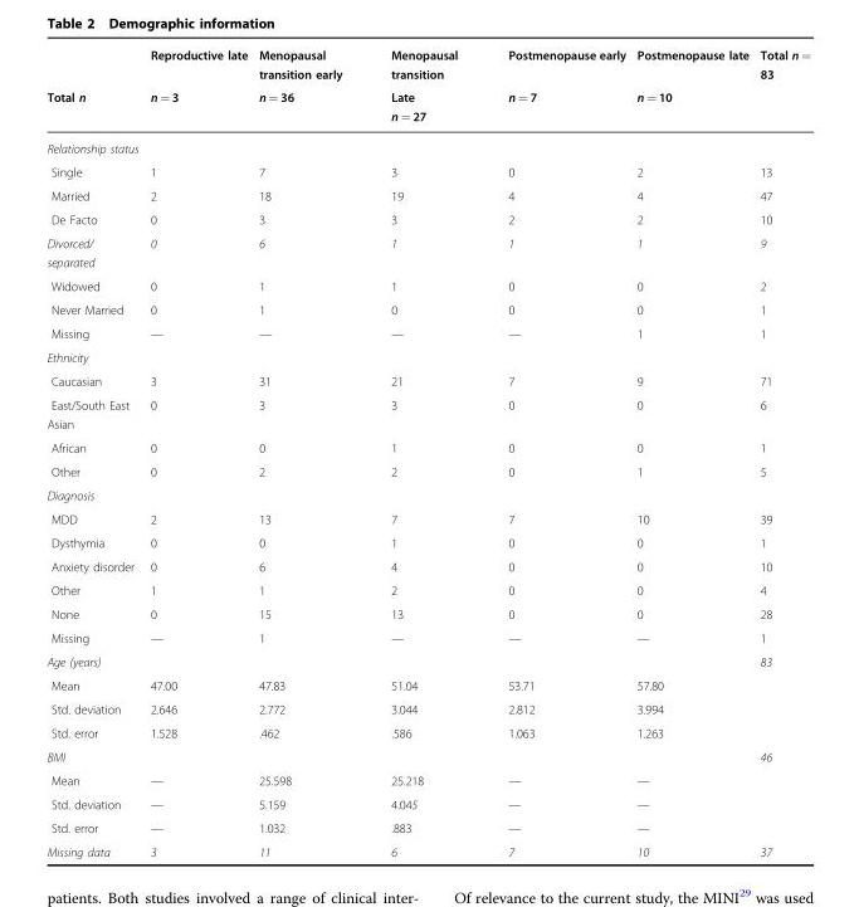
<table><thead><tr><td rowspan="2">Total n</td><td rowspan="2">Reproductive late n = 3</td><td rowspan="2">Menopausal transition early n = 36</td><td rowspan="2">Menopausal transition Late n = 27</td><td rowspan="2">Postmenopause early n = 7</td><td rowspan="2">Postmenopause late n = 10</td><td rowspan="2">Total n = 83</td></tr><tr></tr></thead><tbody><tr><td colspan="7">Relationship status</td></tr><tr><td>Single</td><td>1</td><td>7</td><td>3</td><td>0</td><td>2</td><td>13</td></tr><tr><td>Married</td><td>2</td><td>18</td><td>19</td><td>4</td><td>4</td><td>47</td></tr><tr><td>De Facto</td><td>0</td><td>3</td><td>3</td><td>2</td><td>2</td><td>10</td></tr><tr><td>Divorced/ separated</td><td>0</td><td>6</td><td>1</td><td>1</td><td>1</td><td>9</td></tr><tr><td>Widowed</td><td>0</td><td>1</td><td>1</td><td>0</td><td>0</td><td>2</td></tr><tr><td>Never Married</td><td>0</td><td>1</td><td>0</td><td>0</td><td>0</td><td>1</td></tr><tr><td>Missing</td><td>—</td><td>—</td><td>—</td><td>—</td><td>1</td><td>1</td></tr><tr><td colspan="7">Ethnicity</td></tr><tr><td>Caucasian</td><td>3</td><td>31</td><td>21</td><td>7</td><td>9</td><td>71</td></tr><tr><td>East/South East Asian</td><td>0</td><td>3</td><td>3</td><td>0</td><td>0</td><td>6</td></tr><tr><td>African</td><td>0</td><td>0</td><td>1</td><td>0</td><td>0</td><td>1</td></tr><tr><td>Other</td><td>0</td><td>2</td><td>2</td><td>0</td><td>1</td><td>5</td></tr><tr><td colspan="7">Diagnosis</td></tr><tr><td>MDD</td><td>2</td><td>13</td><td>7</td><td>7</td><td>10</td><td>39</td></tr><tr><td>Dysthymia</td><td>0</td><td>0</td><td>1</td><td>0</td><td>0</td><td>1</td></tr><tr><td>Anxiety disorder</td><td>0</td><td>6</td><td>4</td><td>0</td><td>0</td><td>10</td></tr><tr><td>Other</td><td>1</td><td>1</td><td>2</td><td>0</td><td>0</td><td>4</td></tr><tr><td>None</td><td>0</td><td>15</td><td>13</td><td>0</td><td>0</td><td>28</td></tr><tr><td>Missing</td><td>—</td><td>1</td><td>—</td><td>—</td><td>—</td><td>1</td></tr><tr><td>Age (years)</td><td></td><td></td><td></td><td></td><td></td><td>83</td></tr><tr><td>Mean</td><td>47.00</td><td>47.83</td><td>51.04</td><td>53.71</td><td>57.80</td><td></td></tr><tr><td>Std. deviation</td><td>2.646</td><td>2.772</td><td>3.044</td><td>2.812</td><td>3.994</td><td></td></tr><tr><td>Std. error</td><td>1.528</td><td>.462</td><td>.586</td><td>1.063</td><td>1.263</td><td></td></tr><tr><td>BMI</td><td></td><td></td><td></td><td></td><td></td><td>46</td></tr><tr><td>Mean</td><td>—</td><td>25.598</td><td>25.218</td><td>—</td><td>—</td><td></td></tr><tr><td>Std. deviation</td><td>—</td><td>5.159</td><td>4.045</td><td>—</td><td>—</td><td></td></tr><tr><td>Std. error</td><td>—</td><td>1.032</td><td>.883</td><td>—</td><td>—</td><td></td></tr><tr><td>Missing data</td><td>3</td><td>11</td><td>6</td><td>7</td><td>10</td><td>37</td></tr></tbody></table>